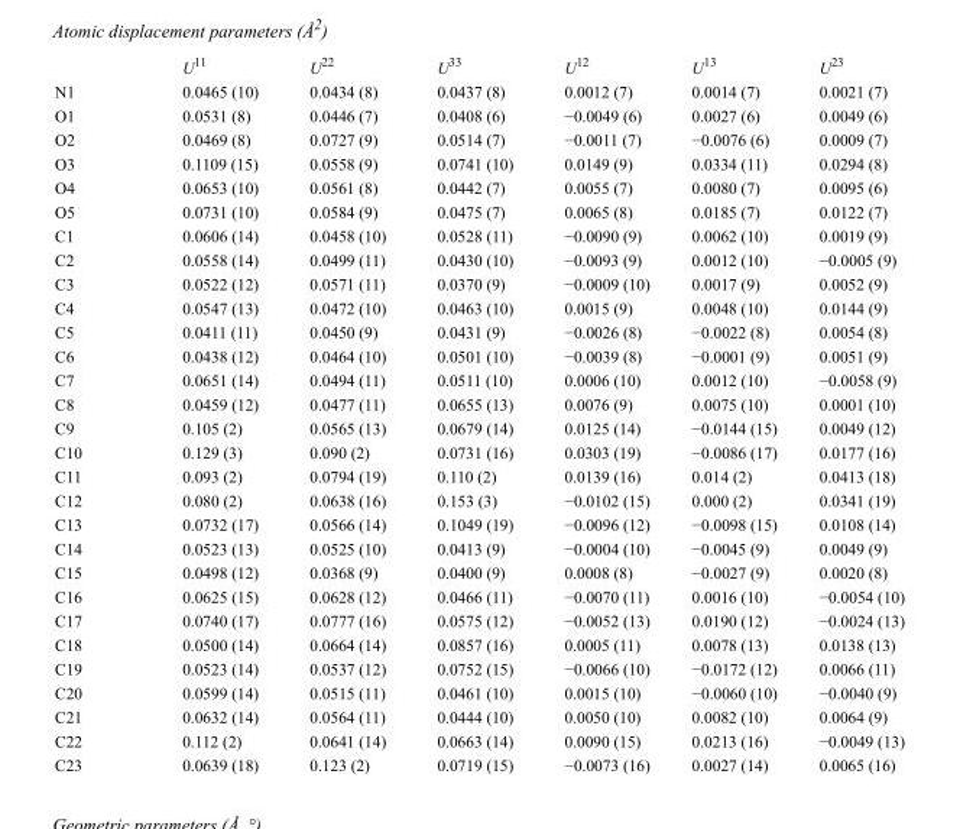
<table><thead><tr><td></td><td>U<sup>11</sup></td><td>U<sup>22</sup></td><td>U<sup>33</sup></td><td>U<sup>12</sup></td><td>U<sup>13</sup></td><td>U<sup>23</sup></td></tr></thead><tbody><tr><td>N1</td><td>0.0465 (10)</td><td>0.0434 (8)</td><td>0.0437 (8)</td><td>0.0012 (7)</td><td>0.0014 (7)</td><td>0.0021 (7)</td></tr><tr><td>O1</td><td>0.0531 (8)</td><td>0.0446 (7)</td><td>0.0408 (6)</td><td>−0.0049 (6)</td><td>0.0027 (6)</td><td>0.0049 (6)</td></tr><tr><td>O2</td><td>0.0469 (8)</td><td>0.0727 (9)</td><td>0.0514 (7)</td><td>−0.0011 (7)</td><td>−0.0076 (6)</td><td>0.0009 (7)</td></tr><tr><td>O3</td><td>0.1109 (15)</td><td>0.0558 (9)</td><td>0.0741 (10)</td><td>0.0149 (9)</td><td>0.0334 (11)</td><td>0.0294 (8)</td></tr><tr><td>O4</td><td>0.0653 (10)</td><td>0.0561 (8)</td><td>0.0442 (7)</td><td>0.0055 (7)</td><td>0.0080 (7)</td><td>0.0095 (6)</td></tr><tr><td>O5</td><td>0.0731 (10)</td><td>0.0584 (9)</td><td>0.0475 (7)</td><td>0.0065 (8)</td><td>0.0185 (7)</td><td>0.0122 (7)</td></tr><tr><td>C1</td><td>0.0606 (14)</td><td>0.0458 (10)</td><td>0.0528 (11)</td><td>−0.0090 (9)</td><td>0.0062 (10)</td><td>0.0019 (9)</td></tr><tr><td>C2</td><td>0.0558 (14)</td><td>0.0499 (11)</td><td>0.0430 (10)</td><td>−0.0093 (9)</td><td>0.0012 (10)</td><td>−0.0005 (9)</td></tr><tr><td>C3</td><td>0.0522 (12)</td><td>0.0571 (11)</td><td>0.0370 (9)</td><td>−0.0009 (10)</td><td>0.0017 (9)</td><td>0.0052 (9)</td></tr><tr><td>C4</td><td>0.0547 (13)</td><td>0.0472 (10)</td><td>0.0463 (10)</td><td>0.0015 (9)</td><td>0.0048 (10)</td><td>0.0144 (9)</td></tr><tr><td>C5</td><td>0.0411 (11)</td><td>0.0450 (9)</td><td>0.0431 (9)</td><td>−0.0026 (8)</td><td>−0.0022 (8)</td><td>0.0054 (8)</td></tr><tr><td>C6</td><td>0.0438 (12)</td><td>0.0464 (10)</td><td>0.0501 (10)</td><td>−0.0039 (8)</td><td>−0.0001 (9)</td><td>0.0051 (9)</td></tr><tr><td>C7</td><td>0.0651 (14)</td><td>0.0494 (11)</td><td>0.0511 (10)</td><td>0.0006 (10)</td><td>0.0012 (10)</td><td>−0.0058 (9)</td></tr><tr><td>C8</td><td>0.0459 (12)</td><td>0.0477 (11)</td><td>0.0655 (13)</td><td>0.0076 (9)</td><td>0.0075 (10)</td><td>0.0001 (10)</td></tr><tr><td>C9</td><td>0.105 (2)</td><td>0.0565 (13)</td><td>0.0679 (14)</td><td>0.0125 (14)</td><td>−0.0144 (15)</td><td>0.0049 (12)</td></tr><tr><td>C10</td><td>0.129 (3)</td><td>0.090 (2)</td><td>0.0731 (16)</td><td>0.0303 (19)</td><td>−0.0086 (17)</td><td>0.0177 (16)</td></tr><tr><td>C11</td><td>0.093 (2)</td><td>0.0794 (19)</td><td>0.110 (2)</td><td>0.0139 (16)</td><td>0.014 (2)</td><td>0.0413 (18)</td></tr><tr><td>C12</td><td>0.080 (2)</td><td>0.0638 (16)</td><td>0.153 (3)</td><td>−0.0102 (15)</td><td>0.000 (2)</td><td>0.0341 (19)</td></tr><tr><td>C13</td><td>0.0732 (17)</td><td>0.0566 (14)</td><td>0.1049 (19)</td><td>−0.0096 (12)</td><td>−0.0098 (15)</td><td>0.0108 (14)</td></tr><tr><td>C14</td><td>0.0523 (13)</td><td>0.0525 (10)</td><td>0.0413 (9)</td><td>−0.0004 (10)</td><td>−0.0045 (9)</td><td>0.0049 (9)</td></tr><tr><td>C15</td><td>0.0498 (12)</td><td>0.0368 (9)</td><td>0.0400 (9)</td><td>0.0008 (8)</td><td>−0.0027 (9)</td><td>0.0020 (8)</td></tr><tr><td>C16</td><td>0.0625 (15)</td><td>0.0628 (12)</td><td>0.0466 (11)</td><td>−0.0070 (11)</td><td>0.0016 (10)</td><td>−0.0054 (10)</td></tr><tr><td>C17</td><td>0.0740 (17)</td><td>0.0777 (16)</td><td>0.0575 (12)</td><td>−0.0052 (13)</td><td>0.0190 (12)</td><td>−0.0024 (13)</td></tr><tr><td>C18</td><td>0.0500 (14)</td><td>0.0664 (14)</td><td>0.0857 (16)</td><td>0.0005 (11)</td><td>0.0078 (13)</td><td>0.0138 (13)</td></tr><tr><td>C19</td><td>0.0523 (14)</td><td>0.0537 (12)</td><td>0.0752 (15)</td><td>−0.0066 (10)</td><td>−0.0172 (12)</td><td>0.0066 (11)</td></tr><tr><td>C20</td><td>0.0599 (14)</td><td>0.0515 (11)</td><td>0.0461 (10)</td><td>0.0015 (10)</td><td>−0.0060 (10)</td><td>−0.0040 (9)</td></tr><tr><td>C21</td><td>0.0632 (14)</td><td>0.0564 (11)</td><td>0.0444 (10)</td><td>0.0050 (10)</td><td>0.0082 (10)</td><td>0.0064 (9)</td></tr><tr><td>C22</td><td>0.112 (2)</td><td>0.0641 (14)</td><td>0.0663 (14)</td><td>0.0090 (15)</td><td>0.0213 (16)</td><td>−0.0049 (13)</td></tr><tr><td>C23</td><td>0.0639 (18)</td><td>0.123 (2)</td><td>0.0719 (15)</td><td>−0.0073 (16)</td><td>0.0027 (14)</td><td>0.0065 (16)</td></tr></tbody></table>